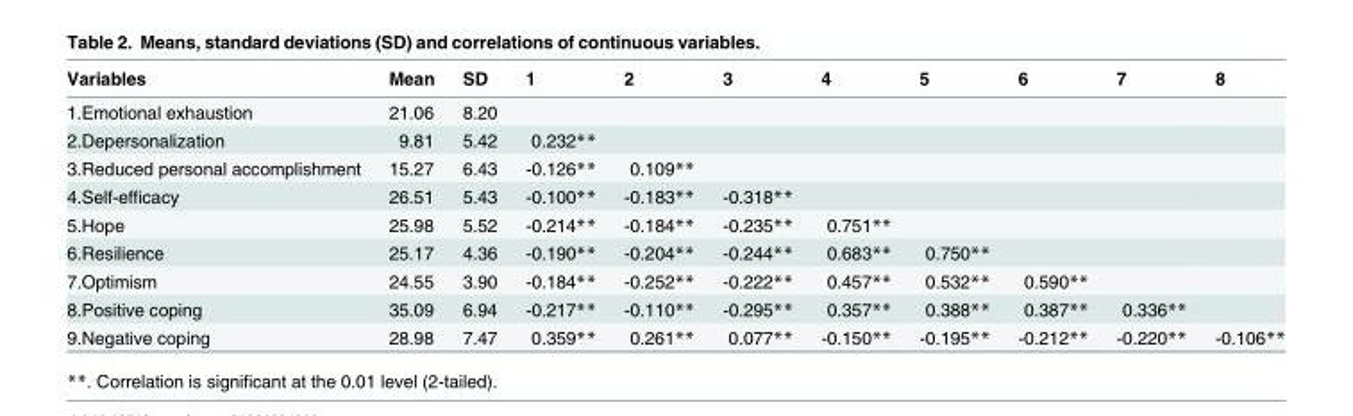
<table><thead><tr><td>Variables</td><td>Mean</td><td>SD</td><td>1</td><td>2</td><td>3</td><td>4</td><td>5</td><td>6</td><td>7</td><td>8</td></tr></thead><tbody><tr><td>1.Emotional exhaustion</td><td>21.06</td><td>8.20</td><td></td><td></td><td></td><td></td><td></td><td></td><td></td><td></td></tr><tr><td>2.Depersonalization</td><td>9.81</td><td>5.42</td><td>0.232**</td><td></td><td></td><td></td><td></td><td></td><td></td><td></td></tr><tr><td>3.Reduced personal accomplishment</td><td>15.27</td><td>6.43</td><td>-0.126**</td><td>0.109**</td><td></td><td></td><td></td><td></td><td></td><td></td></tr><tr><td>4.Self-efficacy</td><td>26.51</td><td>5.43</td><td>-0.100**</td><td>-0.183**</td><td>-0.318**</td><td></td><td></td><td></td><td></td><td></td></tr><tr><td>5.Hope</td><td>25.98</td><td>5.52</td><td>-0.214**</td><td>-0.184**</td><td>-0.235**</td><td>0.751**</td><td></td><td></td><td></td><td></td></tr><tr><td>6.Resilience</td><td>25.17</td><td>4.36</td><td>-0.190**</td><td>-0.204**</td><td>-0.244**</td><td>0.683**</td><td>0.750**</td><td></td><td></td><td></td></tr><tr><td>7.Optimism</td><td>24.55</td><td>3.90</td><td>-0.184**</td><td>-0.252**</td><td>-0.222**</td><td>0.457**</td><td>0.532**</td><td>0.590**</td><td></td><td></td></tr><tr><td>8.Positive coping</td><td>35.09</td><td>6.94</td><td>-0.217**</td><td>-0.110**</td><td>-0.295**</td><td>0.357**</td><td>0.388**</td><td>0.387**</td><td>0.336**</td><td></td></tr><tr><td>9.Negative coping</td><td>28.98</td><td>7.47</td><td>0.359**</td><td>0.261**</td><td>0.077**</td><td>-0.150**</td><td>-0.195**</td><td>-0.212**</td><td>-0.220**</td><td>-0.106**</td></tr></tbody></table>